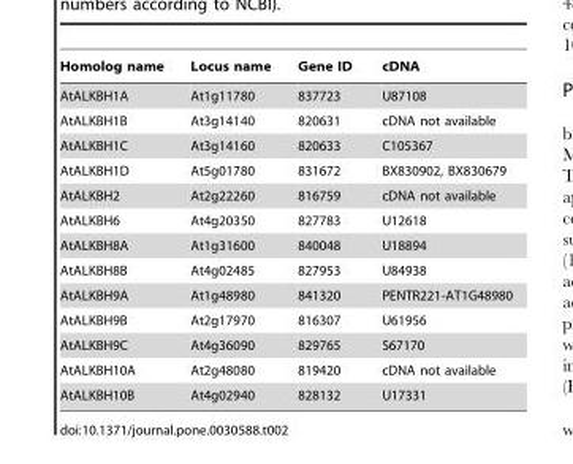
<table><thead><tr><td>Homolog name</td><td>Locus name</td><td>Gene ID</td><td>cDNA</td></tr></thead><tbody><tr><td>AtALKBH1A</td><td>At1g11780</td><td>837723</td><td>U87108</td></tr><tr><td>AtALKBH1B</td><td>At3g14140</td><td>820631</td><td>cDNA not available</td></tr><tr><td>AtALKBH1C</td><td>At3g14160</td><td>820633</td><td>C105367</td></tr><tr><td>AtALKBH1D</td><td>At5g01780</td><td>831672</td><td>BX830902, BX830679</td></tr><tr><td>AtALKBH2</td><td>At2g22260</td><td>816759</td><td>cDNA not available</td></tr><tr><td>AtALKBH6</td><td>At4g20350</td><td>827783</td><td>U12618</td></tr><tr><td>AtALKBH8A</td><td>At1g31600</td><td>840048</td><td>U18894</td></tr><tr><td>AtALKBH8B</td><td>At4g02485</td><td>827953</td><td>U84938</td></tr><tr><td>AtALKBH9A</td><td>At1g48980</td><td>841320</td><td>PENTR221-AT1G48980</td></tr><tr><td>AtALKBH9B</td><td>At2g17970</td><td>816307</td><td>U61956</td></tr><tr><td>AtALKBH9C</td><td>At4g36090</td><td>829765</td><td>S67170</td></tr><tr><td>AtALKBH10A</td><td>At2g48080</td><td>819420</td><td>cDNA not available</td></tr><tr><td>AtALKBH10B</td><td>At4g02940</td><td>828132</td><td>U17331</td></tr></tbody></table>